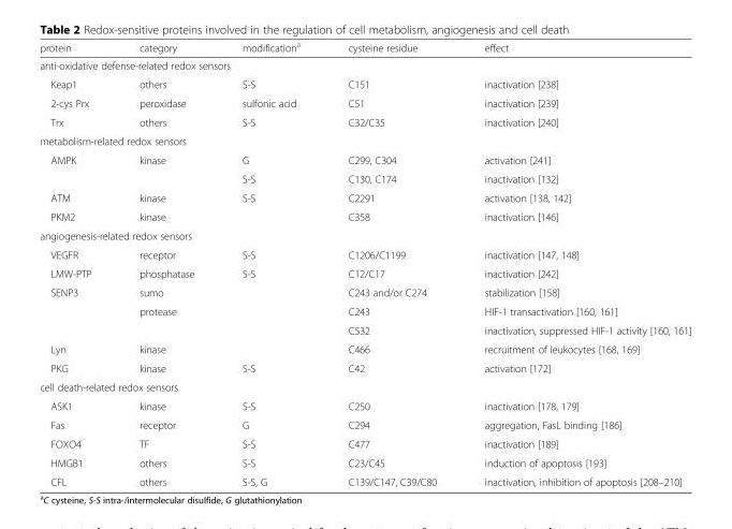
<table><thead><tr><td>protein</td><td>category</td><td>modification<sup>a</sup></td><td>cysteine residue</td><td>effect</td></tr></thead><tbody><tr><td colspan="5">anti-oxidative defense-related redox sensors</td></tr><tr><td>Keap1</td><td>others</td><td>S-S</td><td>C151</td><td>inactivation [238]</td></tr><tr><td>2-cys Prx</td><td>peroxidase</td><td>sulfonic acid</td><td>C51</td><td>inactivation [239]</td></tr><tr><td>Trx</td><td>others</td><td>S-S</td><td>C32/C35</td><td>inactivation [240]</td></tr><tr><td colspan="5">metabolism-related redox sensors</td></tr><tr><td rowspan="2">AMPK</td><td rowspan="2">kinase</td><td>G</td><td>C299, C304</td><td>activation [241]</td></tr><tr><td>S-S</td><td>C130, C174</td><td>inactivation [132]</td></tr><tr><td>ATM</td><td>kinase</td><td>S-S</td><td>C2291</td><td>activation [138, 142]</td></tr><tr><td>PKM2</td><td>kinase</td><td></td><td>C358</td><td>inactivation [146]</td></tr><tr><td colspan="5">angiogenesis-related redox sensors</td></tr><tr><td>VEGFR</td><td>receptor</td><td>S-S</td><td>C1206/C1199</td><td>inactivation [147, 148]</td></tr><tr><td>LMW-PTP</td><td>phosphatase</td><td>S-S</td><td>C12/C17</td><td>inactivation [242]</td></tr><tr><td rowspan="3">SENP3</td><td>sumo</td><td></td><td>C243 and/or C274</td><td>stabilization [158]</td></tr><tr><td>protease</td><td></td><td>C243</td><td>HIF-1 transactivation [160, 161]</td></tr><tr><td></td><td></td><td>C532</td><td>inactivation, suppressed HIF-1 activity [160, 161]</td></tr><tr><td>Lyn</td><td>kinase</td><td></td><td>C466</td><td>recruitment of leukocytes [168, 169]</td></tr><tr><td>PKG</td><td>kinase</td><td>S-S</td><td>C42</td><td>activation [172]</td></tr><tr><td colspan="5">cell death-related redox sensors</td></tr><tr><td>ASK1</td><td>kinase</td><td>S-S</td><td>C250</td><td>inactivation [178, 179]</td></tr><tr><td>Fas</td><td>receptor</td><td>G</td><td>C294</td><td>aggregation, FasL binding [186]</td></tr><tr><td>FOXO4</td><td>TF</td><td>S-S</td><td>C477</td><td>inactivation [189]</td></tr><tr><td>HMGB1</td><td>others</td><td>S-S</td><td>C23/C45</td><td>induction of apoptosis [193]</td></tr><tr><td>CFL</td><td>others</td><td>S-S, G</td><td>C139/C147, C39/C80</td><td>inactivation, inhibition of apoptosis [208–210]</td></tr></tbody></table>